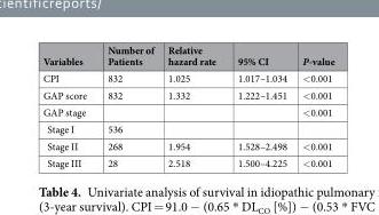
<table><thead><tr><td>Variables</td><td>Number of Patients</td><td>Relative hazard rate</td><td>95% CI</td><td>P-value</td></tr></thead><tbody><tr><td>CPI</td><td>832</td><td>1.025</td><td>1.017–1.034</td><td>&lt;0.001</td></tr><tr><td>GAP score</td><td>832</td><td>1.332</td><td>1.222–1.451</td><td>&lt;0.001</td></tr><tr><td>GAP stage</td><td></td><td></td><td></td><td>&lt;0.001</td></tr><tr><td>Stage I</td><td>536</td><td></td><td></td><td></td></tr><tr><td>Stage II</td><td>268</td><td>1.954</td><td>1.528–2.498</td><td>&lt;0.001</td></tr><tr><td>Stage III</td><td>28</td><td>2.518</td><td>1.500–4.225</td><td>&lt;0.001</td></tr></tbody></table>